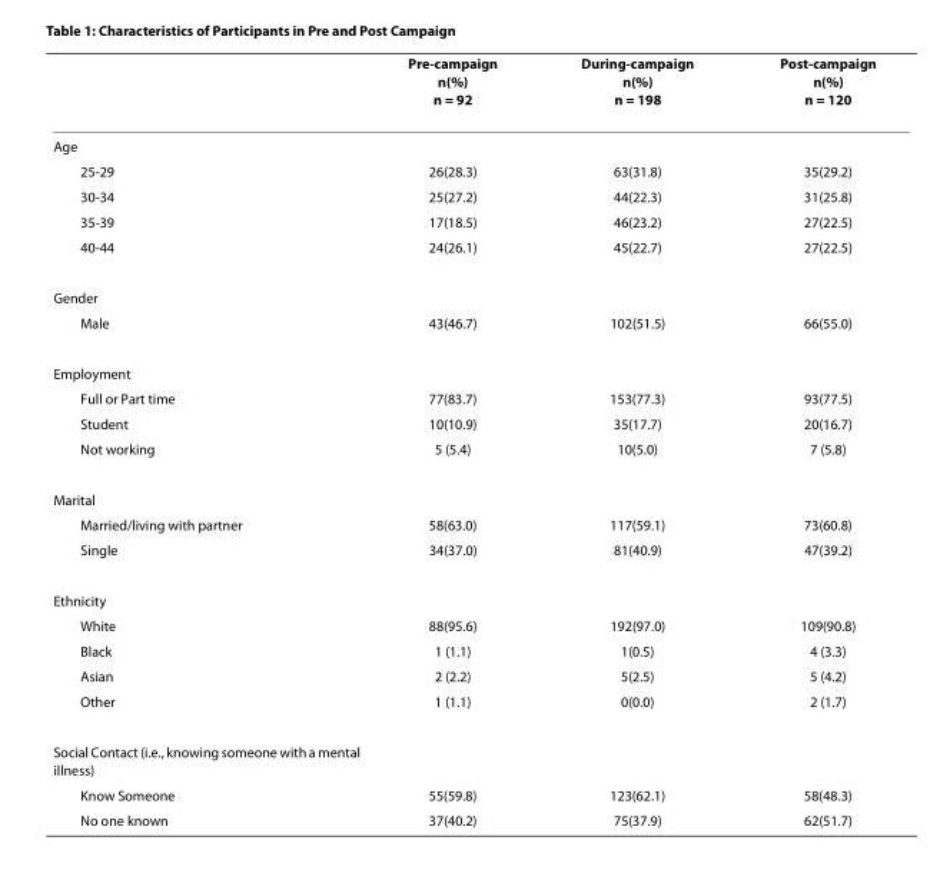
<table><thead><tr><td></td><td>Pre-campaign n(%) n = 92</td><td>During-campaign n(%) n = 198</td><td>Post-campaign n(%) n = 120</td></tr></thead><tbody><tr><td colspan="4">Age</td></tr><tr><td>25-29</td><td>26(28.3)</td><td>63(31.8)</td><td>35(29.2)</td></tr><tr><td>30-34</td><td>25(27.2)</td><td>44(22.3)</td><td>31(25.8)</td></tr><tr><td>35-39</td><td>17(18.5)</td><td>46(23.2)</td><td>27(22.5)</td></tr><tr><td>40-44</td><td>24(26.1)</td><td>45(22.7)</td><td>27(22.5)</td></tr><tr><td colspan="4">Gender</td></tr><tr><td>Male</td><td>43(46.7)</td><td>102(51.5)</td><td>66(55.0)</td></tr><tr><td colspan="4">Employment</td></tr><tr><td>Full or Part time</td><td>77(83.7)</td><td>153(77.3)</td><td>93(77.5)</td></tr><tr><td>Student</td><td>10(10.9)</td><td>35(17.7)</td><td>20(16.7)</td></tr><tr><td>Not working</td><td>5 (5.4)</td><td>10(5.0)</td><td>7 (5.8)</td></tr><tr><td colspan="4">Marital</td></tr><tr><td>Married/living with partner</td><td>58(63.0)</td><td>117(59.1)</td><td>73(60.8)</td></tr><tr><td>Single</td><td>34(37.0)</td><td>81(40.9)</td><td>47(39.2)</td></tr><tr><td colspan="4">Ethnicity</td></tr><tr><td>White</td><td>88(95.6)</td><td>192(97.0)</td><td>109(90.8)</td></tr><tr><td>Black</td><td>1 (1.1)</td><td>1(0.5)</td><td>4 (3.3)</td></tr><tr><td>Asian</td><td>2 (2.2)</td><td>5(2.5)</td><td>5 (4.2)</td></tr><tr><td>Other</td><td>1 (1.1)</td><td>0(0.0)</td><td>2 (1.7)</td></tr><tr><td colspan="4">Social Contact (i.e., knowing someone with a mental illness)</td></tr><tr><td>Know Someone</td><td>55(59.8)</td><td>123(62.1)</td><td>58(48.3)</td></tr><tr><td>No one known</td><td>37(40.2)</td><td>75(37.9)</td><td>62(51.7)</td></tr></tbody></table>